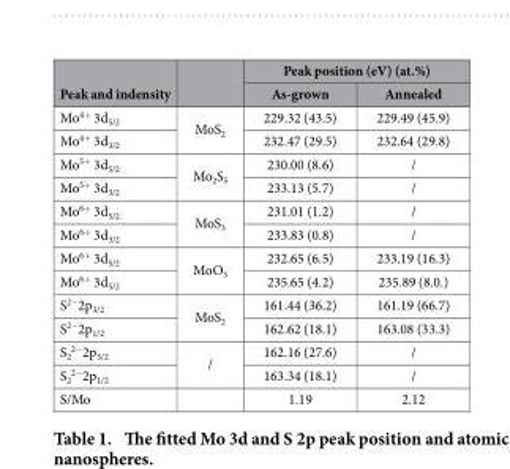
<table><thead><tr><td rowspan="2">Peak and indensity</td><td rowspan="2"></td><td colspan="2">Peak position (eV) (at.%)</td></tr><tr><td>As-grown</td><td>Annealed</td></tr></thead><tbody><tr><td>Mo<sup>4+</sup> 3d<sub>5/2</sub></td><td rowspan="2">MoS<sub>2</sub></td><td>229.32 (43.5)</td><td>229.49 (45.9)</td></tr><tr><td>Mo<sup>4+</sup> 3d<sub>3/2</sub></td><td>232.47 (29.5)</td><td>232.64 (29.8)</td></tr><tr><td>Mo<sup>5+</sup> 3d<sub>5/2</sub></td><td rowspan="2">Mo<sub>2</sub>S<sub>5</sub></td><td>230.00 (8.6)</td><td>/</td></tr><tr><td>Mo<sup>5+</sup> 3d<sub>3/2</sub></td><td>233.13 (5.7)</td><td>/</td></tr><tr><td>Mo<sup>6+</sup> 3d<sub>5/2</sub></td><td rowspan="2">MoS<sub>3</sub></td><td>231.01 (1.2)</td><td>/</td></tr><tr><td>Mo<sup>6+</sup> 3d<sub>3/2</sub></td><td>233.83 (0.8)</td><td>/</td></tr><tr><td>Mo<sup>6+</sup> 3d<sub>5/2</sub></td><td rowspan="2">MoO<sub>3</sub></td><td>232.65 (6.5)</td><td>233.19 (16.3)</td></tr><tr><td>Mo<sup>6+</sup> 3d<sub>5/2</sub></td><td>235.65 (4.2)</td><td>235.89 (8.0.)</td></tr><tr><td>S<sup>2−</sup>2p<sub>3/2</sub></td><td rowspan="2">MoS<sub>2</sub></td><td>161.44 (36.2)</td><td>161.19 (66.7)</td></tr><tr><td>S<sup>2−</sup>2p<sub>1/2</sub></td><td>162.62 (18.1)</td><td>163.08 (33.3)</td></tr><tr><td>S<sub>2</sub> <sup>2−</sup>2p<sub>3/2</sub></td><td rowspan="2">/</td><td>162.16 (27.6)</td><td>/</td></tr><tr><td>S<sub>2</sub> <sup>2−</sup>2p<sub>1/2</sub></td><td>163.34 (18.1)</td><td>/</td></tr><tr><td>S/Mo</td><td></td><td>1.19</td><td>2.12</td></tr></tbody></table>